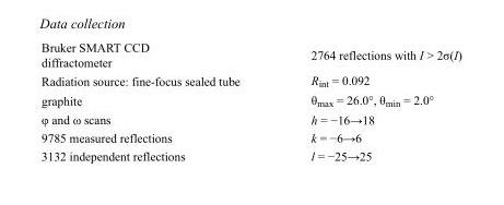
<table><tbody><tr><td>Bruker SMART CCD diffractometer</td><td>2764 reflections with I &gt; 2σ(I)</td></tr><tr><td>Radiation source: fine-focus sealed tube</td><td>R<sub>int</sub> = 0.092</td></tr><tr><td>graphite</td><td>θ<sub>max</sub> = 26.0°, θ<sub>min</sub> = 2.0°</td></tr><tr><td>φ and ω scans</td><td>h = −16→18</td></tr><tr><td>9785 measured reflections</td><td>k = −6→6</td></tr><tr><td>3132 independent reflections</td><td>l = −25→25</td></tr></tbody></table>